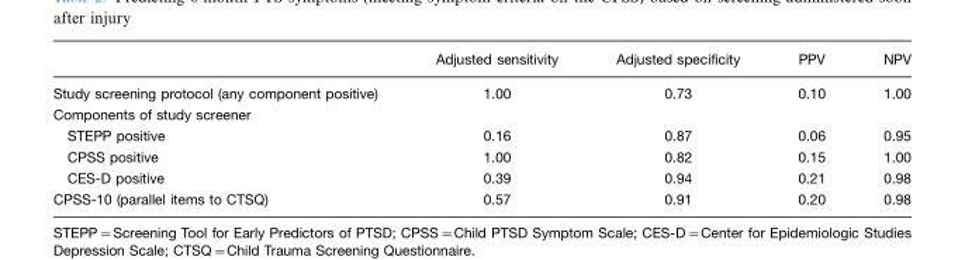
<table><thead><tr><td></td><td>Adjusted sensitivity</td><td>Adjusted specificity</td><td>PPV</td><td>NPV</td></tr></thead><tbody><tr><td>Study screening protocol (any component positive)</td><td>1.00</td><td>0.73</td><td>0.10</td><td>1.00</td></tr><tr><td colspan="5">Components of study screener</td></tr><tr><td>STEPP positive</td><td>0.16</td><td>0.87</td><td>0.06</td><td>0.95</td></tr><tr><td>CPSS positive</td><td>1.00</td><td>0.82</td><td>0.15</td><td>1.00</td></tr><tr><td>CES-D positive</td><td>0.39</td><td>0.94</td><td>0.21</td><td>0.98</td></tr><tr><td>CPSS-10 (parallel items to CTSQ)</td><td>0.57</td><td>0.91</td><td>0.20</td><td>0.98</td></tr></tbody></table>